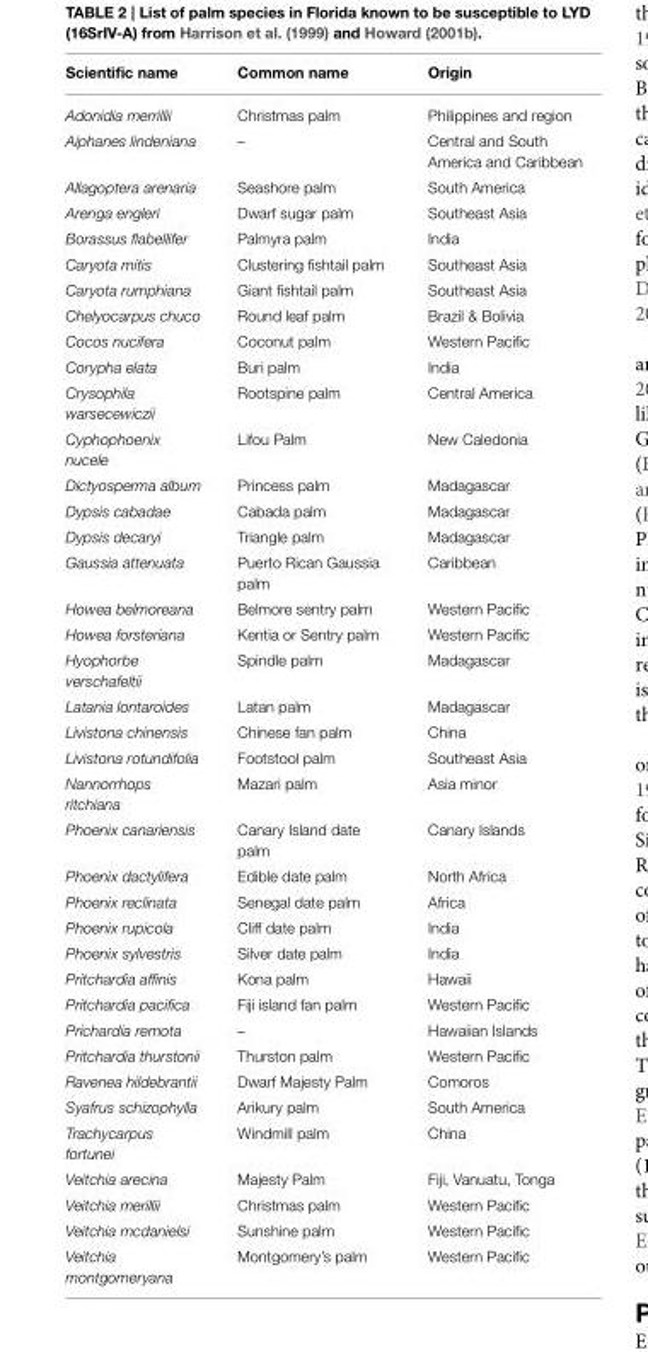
<table><thead><tr><td>Scientific name</td><td>Common name</td><td>Origin</td></tr></thead><tbody><tr><td>Adonidia merrillii</td><td>Christmas palm</td><td>Philippines and region</td></tr><tr><td>Aiphanes lindeniana</td><td>–</td><td>Central and South America and Caribbean</td></tr><tr><td>Allagoptera arenaria</td><td>Seashore palm</td><td>South America</td></tr><tr><td>Arenga engleri</td><td>Dwarf sugar palm</td><td>Southeast Asia</td></tr><tr><td>Borassus flabellifer</td><td>Palmyra palm</td><td>India</td></tr><tr><td>Caryota mitis</td><td>Clustering fishtail palm</td><td>Southeast Asia</td></tr><tr><td>Caryota rumphiana</td><td>Giant fishtail palm</td><td>Southeast Asia</td></tr><tr><td>Chelyocarpus chuco</td><td>Round leaf palm</td><td>Brazil &amp; Bolivia</td></tr><tr><td>Cocos nucifera</td><td>Coconut palm</td><td>Western Pacific</td></tr><tr><td>Corypha elata</td><td>Buri palm</td><td>India</td></tr><tr><td>Crysophila warsecewiczii</td><td>Rootspine palm</td><td>Central America</td></tr><tr><td>Cyphophoenix nucele</td><td>Lifou Palm</td><td>New Caledonia</td></tr><tr><td>Dictyosperma album</td><td>Princess palm</td><td>Madagascar</td></tr><tr><td>Dypsis cabadae</td><td>Cabada palm</td><td>Madagascar</td></tr><tr><td>Dypsis decaryi</td><td>Triangle palm</td><td>Madagascar</td></tr><tr><td>Gaussia attenuata</td><td>Puerto Rican Gaussia palm</td><td>Caribbean</td></tr><tr><td>Howea belmoreana</td><td>Belmore sentry palm</td><td>Western Pacific</td></tr><tr><td>Howea forsteriana</td><td>Kentia or Sentry palm</td><td>Western Pacific</td></tr><tr><td>Hyophorbe verschafeltii</td><td>Spindle palm</td><td>Madagascar</td></tr><tr><td>Latania lontaroides</td><td>Latan palm</td><td>Madagascar</td></tr><tr><td>Livistona chinensis</td><td>Chinese fan palm</td><td>China</td></tr><tr><td>Livistona rotundifolia</td><td>Footstool palm</td><td>Southeast Asia</td></tr><tr><td>Nannorrhops ritchiana</td><td>Mazari palm</td><td>Asia minor</td></tr><tr><td>Phoenix canariensis</td><td>Canary Island date palm</td><td>Canary Islands</td></tr><tr><td>Phoenix dactylifera</td><td>Edible date palm</td><td>North Africa</td></tr><tr><td>Phoenix reclinata</td><td>Senegal date palm</td><td>Africa</td></tr><tr><td>Phoenix rupicola</td><td>Cliff date palm</td><td>India</td></tr><tr><td>Phoenix sylvestris</td><td>Silver date palm</td><td>India</td></tr><tr><td>Pritchardia affinis</td><td>Kona palm</td><td>Hawaii</td></tr><tr><td>Pritchardia pacifica</td><td>Fiji island fan palm</td><td>Western Pacific</td></tr><tr><td>Prichardia remota</td><td>–</td><td>Hawaiian Islands</td></tr><tr><td>Pritchardia thurstonii</td><td>Thurston palm</td><td>Western Pacific</td></tr><tr><td>Ravenea hildebrantii</td><td>Dwarf Majesty Palm</td><td>Comoros</td></tr><tr><td>Syafrus schizophylla</td><td>Arikury palm</td><td>South America</td></tr><tr><td>Trachycarpus fortunei</td><td>Windmill palm</td><td>China</td></tr><tr><td>Veitchia arecina</td><td>Majesty Palm</td><td>Fiji, Vanuatu, Tonga</td></tr><tr><td>Veitchia merillii</td><td>Christmas palm</td><td>Western Pacific</td></tr><tr><td>Veitchia mcdanielsi</td><td>Sunshine palm</td><td>Western Pacific</td></tr><tr><td>Veitchia montgomeryana</td><td>Montgomery’s palm</td><td>Western Pacific</td></tr></tbody></table>